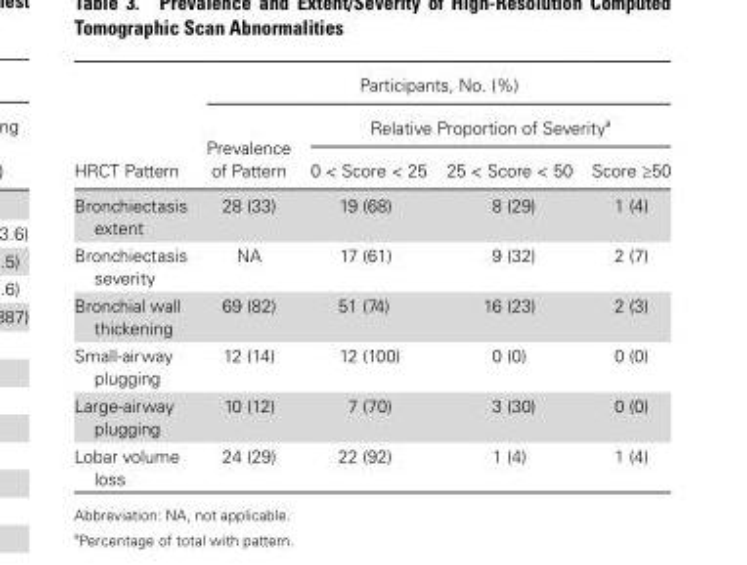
<table><thead><tr><td rowspan="3">HRCT Pattern</td><td colspan="4">Participants, No. (%)</td></tr><tr><td rowspan="2">Prevalence of Pattern</td><td colspan="3">Relative Proportion of Severity<sup>a</sup></td></tr><tr><td>0 &lt; Score &lt; 25</td><td>25 &lt; Score &lt; 50</td><td>Score ≥50</td></tr></thead><tbody><tr><td>Bronchiectasis extent</td><td>28 (33)</td><td>19 (68)</td><td>8 (29)</td><td>1 (4)</td></tr><tr><td>Bronchiectasis severity</td><td>NA</td><td>17 (61)</td><td>9 (32)</td><td>2 (7)</td></tr><tr><td>Bronchial wall thickening</td><td>69 (82)</td><td>51 (74)</td><td>16 (23)</td><td>2 (3)</td></tr><tr><td>Small-airway plugging</td><td>12 (14)</td><td>12 (100)</td><td>0 (0)</td><td>0 (0)</td></tr><tr><td>Large-airway plugging</td><td>10 (12)</td><td>7 (70)</td><td>3 (30)</td><td>0 (0)</td></tr><tr><td>Lobar volume loss</td><td>24 (29)</td><td>22 (92)</td><td>1 (4)</td><td>1 (4)</td></tr></tbody></table>